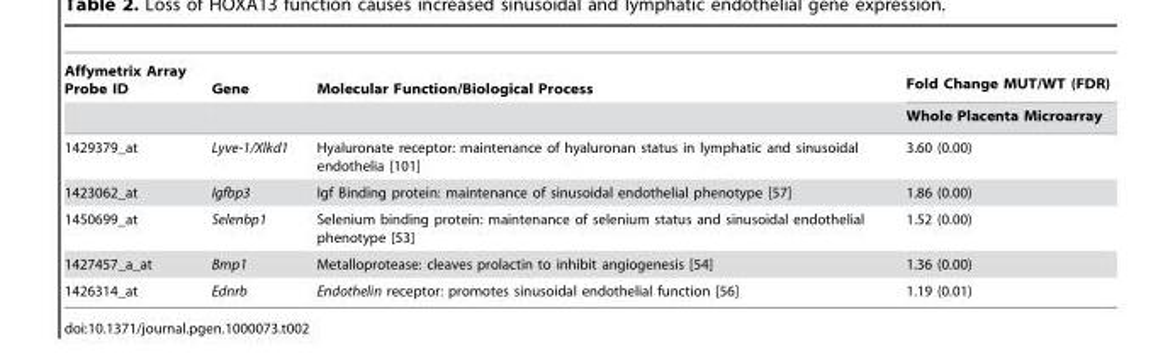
<table><thead><tr><td rowspan="2">Affymetrix Array Probe ID</td><td rowspan="2">Gene</td><td rowspan="2">Molecular Function/Biological Process</td><td rowspan="2">Fold Change MUT/WT (FDR) Whole Placenta Microarray</td></tr><tr></tr></thead><tbody><tr><td>1429379_at</td><td>Lyve-1/Xlkd1</td><td>Hyaluronate receptor: maintenance of hyaluronan status in lymphatic and sinusoidal endothelia [101]</td><td>3.60 (0.00)</td></tr><tr><td>1423062_at</td><td>Igfbp3</td><td>Igf Binding protein: maintenance of sinusoidal endothelial phenotype [57]</td><td>1.86 (0.00)</td></tr><tr><td>1450699_at</td><td>Selenbp1</td><td>Selenium binding protein: maintenance of selenium status and sinusoidal endothelial phenotype [53]</td><td>1.52 (0.00)</td></tr><tr><td>1427457_a_at</td><td>Bmp1</td><td>Metalloprotease: cleaves prolactin to inhibit angiogenesis [54]</td><td>1.36 (0.00)</td></tr><tr><td>1426314_at</td><td>Ednrb</td><td>Endothelin receptor: promotes sinusoidal endothelial function [56]</td><td>1.19 (0.01)</td></tr></tbody></table>